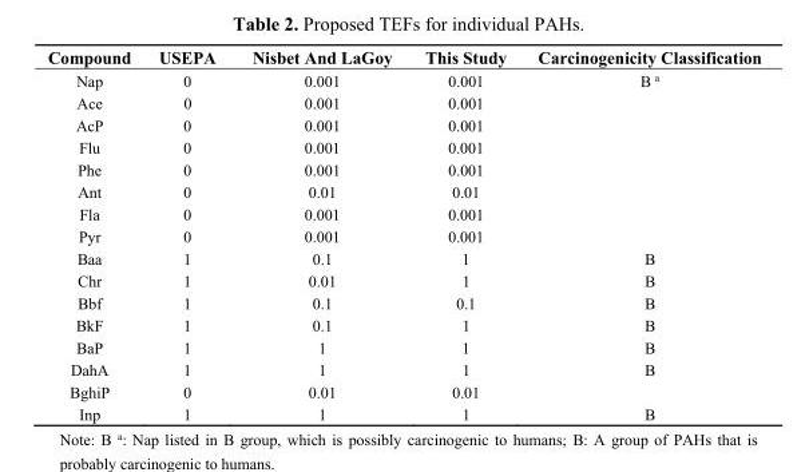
<table><thead><tr><td>Compound</td><td>USEPA</td><td>Nisbet And LaGoy</td><td>This Study</td><td>Carcinogenicity Classification</td></tr></thead><tbody><tr><td>Nap</td><td>0</td><td>0.001</td><td>0.001</td><td>B <sup>a</sup></td></tr><tr><td>Ace</td><td>0</td><td>0.001</td><td>0.001</td><td></td></tr><tr><td>AcP</td><td>0</td><td>0.001</td><td>0.001</td><td></td></tr><tr><td>Flu</td><td>0</td><td>0.001</td><td>0.001</td><td></td></tr><tr><td>Phe</td><td>0</td><td>0.001</td><td>0.001</td><td></td></tr><tr><td>Ant</td><td>0</td><td>0.01</td><td>0.01</td><td></td></tr><tr><td>Fla</td><td>0</td><td>0.001</td><td>0.001</td><td></td></tr><tr><td>Pyr</td><td>0</td><td>0.001</td><td>0.001</td><td></td></tr><tr><td>Baa</td><td>1</td><td>0.1</td><td>1</td><td>B</td></tr><tr><td>Chr</td><td>1</td><td>0.01</td><td>1</td><td>B</td></tr><tr><td>Bbf</td><td>1</td><td>0.1</td><td>0.1</td><td>B</td></tr><tr><td>BkF</td><td>1</td><td>0.1</td><td>1</td><td>B</td></tr><tr><td>BaP</td><td>1</td><td>1</td><td>1</td><td>B</td></tr><tr><td>DahA</td><td>1</td><td>1</td><td>1</td><td>B</td></tr><tr><td>BghiP</td><td>0</td><td>0.01</td><td>0.01</td><td></td></tr><tr><td>Inp</td><td>1</td><td>1</td><td>1</td><td>B</td></tr></tbody></table>